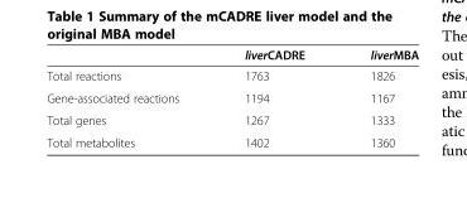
<table><thead><tr><td></td><td>liverCADRE</td><td>liverMBA</td></tr></thead><tbody><tr><td>Total reactions</td><td>1763</td><td>1826</td></tr><tr><td>Gene-associated reactions</td><td>1194</td><td>1167</td></tr><tr><td>Total genes</td><td>1267</td><td>1333</td></tr><tr><td>Total metabolites</td><td>1402</td><td>1360</td></tr></tbody></table>